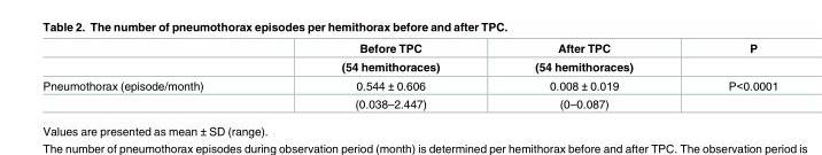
<table><thead><tr><td rowspan="2"></td><td rowspan="2">Before TPC (54 hemithoraces)</td><td rowspan="2">After TPC (54 hemithoraces)</td><td rowspan="2">P</td></tr><tr></tr></thead><tbody><tr><td rowspan="2">Pneumothorax (episode/month)</td><td>0.544 ± 0.606</td><td>0.008 ± 0.019</td><td>P&lt;0.0001</td></tr><tr><td>(0.038–2.447)</td><td>(0–0.087)</td><td></td></tr></tbody></table>